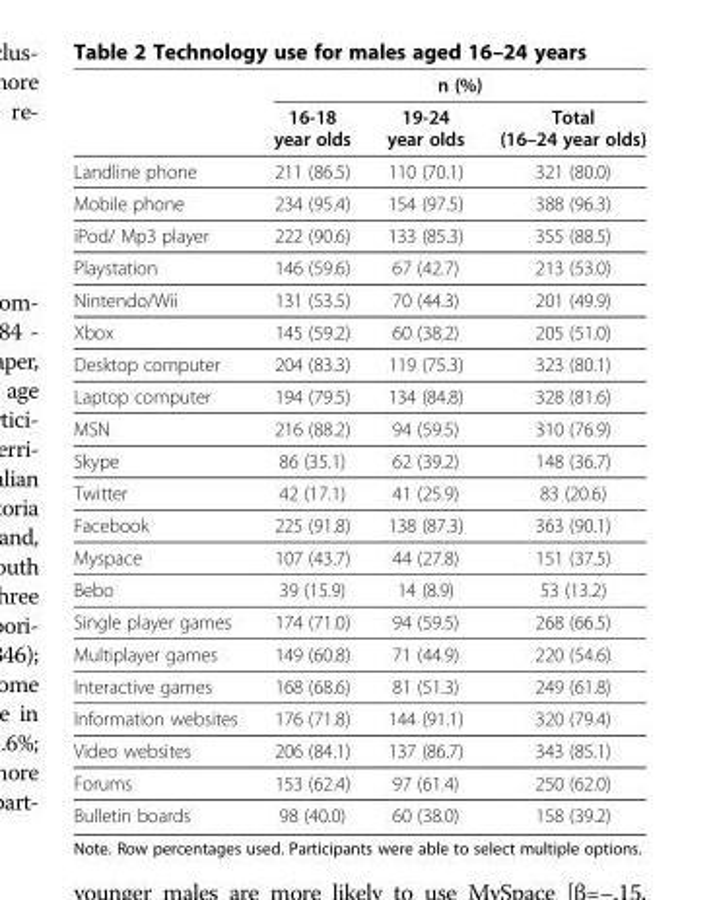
<table><thead><tr><td rowspan="2"></td><td colspan="3">n (%)</td></tr><tr><td>16-18 year olds</td><td>19-24 year olds</td><td>Total (16–24 year olds)</td></tr></thead><tbody><tr><td>Landline phone</td><td>211 (86.5)</td><td>110 (70.1)</td><td>321 (80.0)</td></tr><tr><td>Mobile phone</td><td>234 (95.4)</td><td>154 (97.5)</td><td>388 (96.3)</td></tr><tr><td>iPod/ Mp3 player</td><td>222 (90.6)</td><td>133 (85.3)</td><td>355 (88.5)</td></tr><tr><td>Playstation</td><td>146 (59.6)</td><td>67 (42.7)</td><td>213 (53.0)</td></tr><tr><td>Nintendo/Wii</td><td>131 (53.5)</td><td>70 (44.3)</td><td>201 (49.9)</td></tr><tr><td>Xbox</td><td>145 (59.2)</td><td>60 (38.2)</td><td>205 (51.0)</td></tr><tr><td>Desktop computer</td><td>204 (83.3)</td><td>119 (75.3)</td><td>323 (80.1)</td></tr><tr><td>Laptop computer</td><td>194 (79.5)</td><td>134 (84.8)</td><td>328 (81.6)</td></tr><tr><td>MSN</td><td>216 (88.2)</td><td>94 (59.5)</td><td>310 (76.9)</td></tr><tr><td>Skype</td><td>86 (35.1)</td><td>62 (39.2)</td><td>148 (36.7)</td></tr><tr><td>Twitter</td><td>42 (17.1)</td><td>41 (25.9)</td><td>83 (20.6)</td></tr><tr><td>Facebook</td><td>225 (91.8)</td><td>138 (87.3)</td><td>363 (90.1)</td></tr><tr><td>Myspace</td><td>107 (43.7)</td><td>44 (27.8)</td><td>151 (37.5)</td></tr><tr><td>Bebo</td><td>39 (15.9)</td><td>14 (8.9)</td><td>53 (13.2)</td></tr><tr><td>Single player games</td><td>174 (71.0)</td><td>94 (59.5)</td><td>268 (66.5)</td></tr><tr><td>Multiplayer games</td><td>149 (60.8)</td><td>71 (44.9)</td><td>220 (54.6)</td></tr><tr><td>Interactive games</td><td>168 (68.6)</td><td>81 (51.3)</td><td>249 (61.8)</td></tr><tr><td>Information websites</td><td>176 (71.8)</td><td>144 (91.1)</td><td>320 (79.4)</td></tr><tr><td>Video websites</td><td>206 (84.1)</td><td>137 (86.7)</td><td>343 (85.1)</td></tr><tr><td>Forums</td><td>153 (62.4)</td><td>97 (61.4)</td><td>250 (62.0)</td></tr><tr><td>Bulletin boards</td><td>98 (40.0)</td><td>60 (38.0)</td><td>158 (39.2)</td></tr></tbody></table>